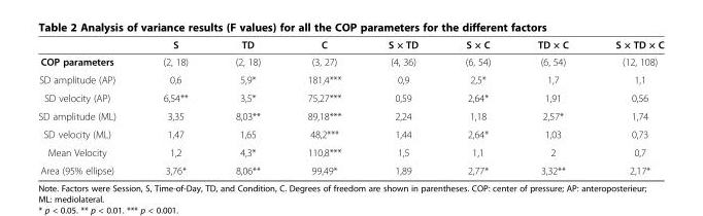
<table><thead><tr><td></td><td>S</td><td>TD</td><td>C</td><td>S × TD</td><td>S × C</td><td>TD × C</td><td>S × TD × C</td></tr></thead><tbody><tr><td>COP parameters</td><td>(2, 18)</td><td>(2, 18)</td><td>(3, 27)</td><td>(4, 36)</td><td>(6, 54)</td><td>(6, 54)</td><td>(12, 108)</td></tr><tr><td>SD amplitude (AP)</td><td>0,6</td><td>5,9*</td><td>181,4***</td><td>0,9</td><td>2,5*</td><td>1,7</td><td>1,1</td></tr><tr><td>SD velocity (AP)</td><td>6,54**</td><td>3,5*</td><td>75,27***</td><td>0,59</td><td>2,64*</td><td>1,91</td><td>0,56</td></tr><tr><td>SD amplitude (ML)</td><td>3,35</td><td>8,03**</td><td>89,18***</td><td>2,24</td><td>1,18</td><td>2,57*</td><td>1,74</td></tr><tr><td>SD velocity (ML)</td><td>1,47</td><td>1,65</td><td>48,2***</td><td>1,44</td><td>2,64*</td><td>1,03</td><td>0,73</td></tr><tr><td>Mean Velocity</td><td>1,2</td><td>4,3*</td><td>110,8***</td><td>1,5</td><td>1,1</td><td>2</td><td>0,7</td></tr><tr><td>Area (95% ellipse)</td><td>3,76*</td><td>8,06**</td><td>99,49*</td><td>1,89</td><td>2,77*</td><td>3,32**</td><td>2,17*</td></tr></tbody></table>